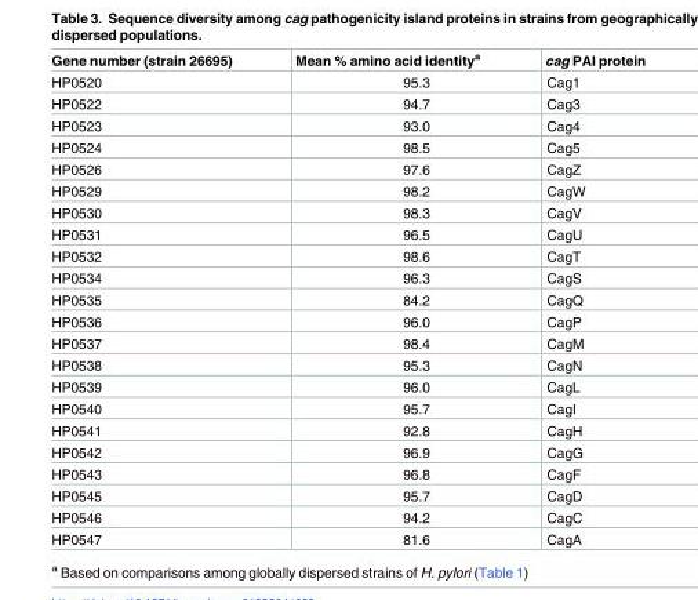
<table><thead><tr><td>Gene number (strain 26695)</td><td>Mean % amino acid identity<sup>a</sup></td><td>cag PAI protein</td></tr></thead><tbody><tr><td>HP0520</td><td>95.3</td><td>Cag1</td></tr><tr><td>HP0522</td><td>94.7</td><td>Cag3</td></tr><tr><td>HP0523</td><td>93.0</td><td>Cag4</td></tr><tr><td>HP0524</td><td>98.5</td><td>Cag5</td></tr><tr><td>HP0526</td><td>97.6</td><td>CagZ</td></tr><tr><td>HP0529</td><td>98.2</td><td>CagW</td></tr><tr><td>HP0530</td><td>98.3</td><td>CagV</td></tr><tr><td>HP0531</td><td>96.5</td><td>CagU</td></tr><tr><td>HP0532</td><td>98.6</td><td>CagT</td></tr><tr><td>HP0534</td><td>96.3</td><td>CagS</td></tr><tr><td>HP0535</td><td>84.2</td><td>CagQ</td></tr><tr><td>HP0536</td><td>96.0</td><td>CagP</td></tr><tr><td>HP0537</td><td>98.4</td><td>CagM</td></tr><tr><td>HP0538</td><td>95.3</td><td>CagN</td></tr><tr><td>HP0539</td><td>96.0</td><td>CagL</td></tr><tr><td>HP0540</td><td>95.7</td><td>CagI</td></tr><tr><td>HP0541</td><td>92.8</td><td>CagH</td></tr><tr><td>HP0542</td><td>96.9</td><td>CagG</td></tr><tr><td>HP0543</td><td>96.8</td><td>CagF</td></tr><tr><td>HP0545</td><td>95.7</td><td>CagD</td></tr><tr><td>HP0546</td><td>94.2</td><td>CagC</td></tr><tr><td>HP0547</td><td>81.6</td><td>CagA</td></tr></tbody></table>